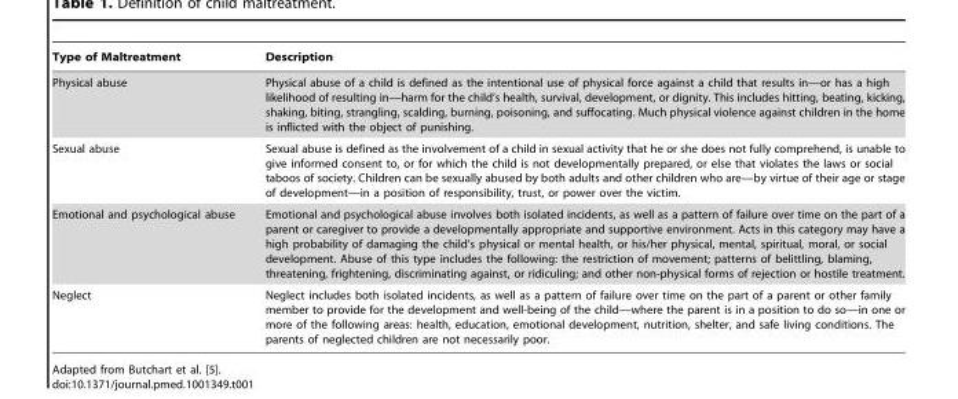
<table><thead><tr><td>Type of Maltreatment</td><td>Description</td></tr></thead><tbody><tr><td>Physical abuse</td><td>Physical abuse of a child is defined as the intentional use of physical force against a child that results in—or has a high likelihood of resulting in—harm for the child’s health, survival, development, or dignity. This includes hitting, beating, kicking, shaking, biting, strangling, scalding, burning, poisoning, and suffocating. Much physical violence against children in the home is inflicted with the object of punishing.</td></tr><tr><td>Sexual abuse</td><td>Sexual abuse is defined as the involvement of a child in sexual activity that he or she does not fully comprehend, is unable to give informed consent to, or for which the child is not developmentally prepared, or else that violates the laws or social taboos of society. Children can be sexually abused by both adults and other children who are—by virtue of their age or stage of development—in a position of responsibility, trust, or power over the victim.</td></tr><tr><td>Emotional and psychological abuse</td><td>Emotional and psychological abuse involves both isolated incidents, as well as a pattern of failure over time on the part of a parent or caregiver to provide a developmentally appropriate and supportive environment. Acts in this category may have a high probability of damaging the child’s physical or mental health, or his/her physical, mental, spiritual, moral, or social development. Abuse of this type includes the following: the restriction of movement; patterns of belittling, blaming, threatening, frightening, discriminating against, or ridiculing; and other non-physical forms of rejection or hostile treatment.</td></tr><tr><td>Neglect</td><td>Neglect includes both isolated incidents, as well as a pattern of failure over time on the part of a parent or other family member to provide for the development and well-being of the child—where the parent is in a position to do so—in one or more of the following areas: health, education, emotional development, nutrition, shelter, and safe living conditions. The parents of neglected children are not necessarily poor.</td></tr></tbody></table>